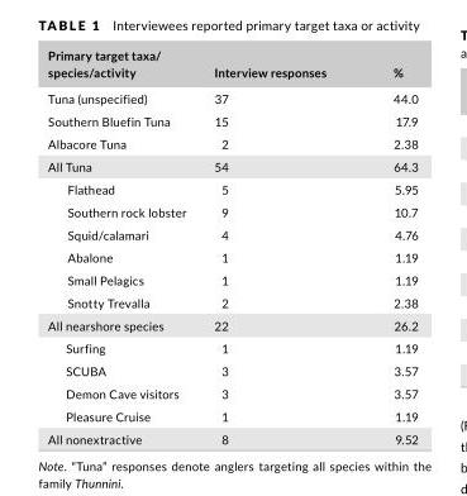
<table><thead><tr><td>Primary target taxa/ species/activity</td><td>Interview responses</td><td>%</td></tr></thead><tbody><tr><td>Tuna (unspecified)</td><td>37</td><td>44.0</td></tr><tr><td>Southern Bluefin Tuna</td><td>15</td><td>17.9</td></tr><tr><td>Albacore Tuna</td><td>2</td><td>2.38</td></tr><tr><td>All Tuna</td><td>54</td><td>64.3</td></tr><tr><td>Flathead</td><td>5</td><td>5.95</td></tr><tr><td>Southern rock lobster</td><td>9</td><td>10.7</td></tr><tr><td>Squid/calamari</td><td>4</td><td>4.76</td></tr><tr><td>Abalone</td><td>1</td><td>1.19</td></tr><tr><td>Small Pelagics</td><td>1</td><td>1.19</td></tr><tr><td>Snotty Trevalla</td><td>2</td><td>2.38</td></tr><tr><td>All nearshore species</td><td>22</td><td>26.2</td></tr><tr><td>Surfing</td><td>1</td><td>1.19</td></tr><tr><td>SCUBA</td><td>3</td><td>3.57</td></tr><tr><td>Demon Cave visitors</td><td>3</td><td>3.57</td></tr><tr><td>Pleasure Cruise</td><td>1</td><td>1.19</td></tr><tr><td>All nonextractive</td><td>8</td><td>9.52</td></tr></tbody></table>